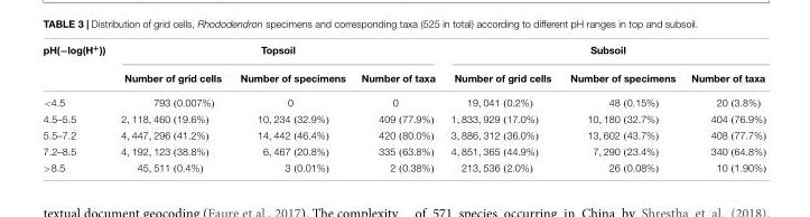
<table><thead><tr><td rowspan="2">pH(−log(H<sup>+</sup>))</td><td colspan="3">Topsoil</td><td colspan="3">Subsoil</td></tr><tr><td>Number of grid cells</td><td>Number of specimens</td><td>Number of taxa</td><td>Number of grid cells</td><td>Number of specimens</td><td>Number of taxa</td></tr></thead><tbody><tr><td>&lt;4.5</td><td>793 (0.007%)</td><td>0</td><td>0</td><td>19, 041 (0.2%)</td><td>48 (0.15%)</td><td>20 (3.8%)</td></tr><tr><td>4.5–5.5</td><td>2, 118, 460 (19.6%)</td><td>10, 234 (32.9%)</td><td>409 (77.9%)</td><td>1, 833, 929 (17.0%)</td><td>10, 180 (32.7%)</td><td>404 (76.9%)</td></tr><tr><td>5.5–7.2</td><td>4, 447, 296 (41.2%)</td><td>14, 442 (46.4%)</td><td>420 (80.0%)</td><td>3, 886, 312 (36.0%)</td><td>13, 602 (43.7%)</td><td>408 (77.7%)</td></tr><tr><td>7.2–8.5</td><td>4, 192, 123 (38.8%)</td><td>6, 467 (20.8%)</td><td>335 (63.8%)</td><td>4, 851, 365 (44.9%)</td><td>7, 290 (23.4%)</td><td>340 (64.8%)</td></tr><tr><td>&gt;8.5</td><td>45, 511 (0.4%)</td><td>3 (0.01%)</td><td>2 (0.38%)</td><td>213, 536 (2.0%)</td><td>26 (0.08%)</td><td>10 (1.90%)</td></tr></tbody></table>